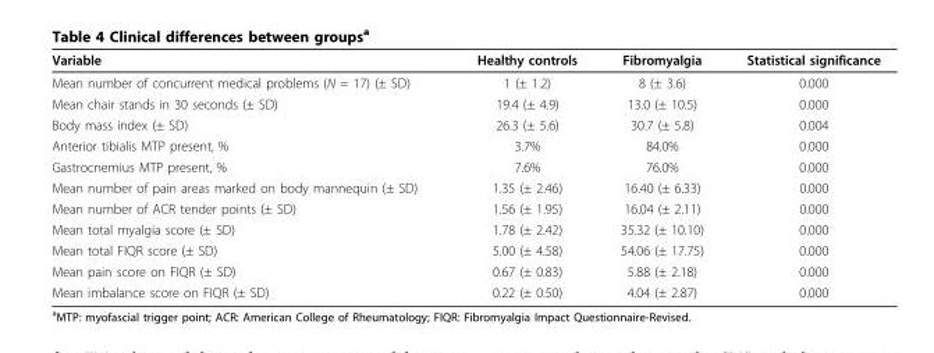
<table><thead><tr><td>Variable</td><td>Healthy controls</td><td>Fibromyalgia</td><td>Statistical significance</td></tr></thead><tbody><tr><td>Mean number of concurrent medical problems (N = 17) (± SD)</td><td>1 (± 1.2)</td><td>8 (± 3.6)</td><td>0.000</td></tr><tr><td>Mean chair stands in 30 seconds (± SD)</td><td>19.4 (± 4.9)</td><td>13.0 (± 10.5)</td><td>0.000</td></tr><tr><td>Body mass index (± SD)</td><td>26.3 (± 5.6)</td><td>30.7 (± 5.8)</td><td>0.004</td></tr><tr><td>Anterior tibialis MTP present, %</td><td>3.7%</td><td>84.0%</td><td>0.000</td></tr><tr><td>Gastrocnemius MTP present, %</td><td>7.6%</td><td>76.0%</td><td>0.000</td></tr><tr><td>Mean number of pain areas marked on body mannequin (± SD)</td><td>1.35 (± 2.46)</td><td>16.40 (± 6.33)</td><td>0.000</td></tr><tr><td>Mean number of ACR tender points (± SD)</td><td>1.56 (± 1.95)</td><td>16.04 (± 2.11)</td><td>0.000</td></tr><tr><td>Mean total myalgia score (± SD)</td><td>1.78 (± 2.42)</td><td>35.32 (± 10.10)</td><td>0.000</td></tr><tr><td>Mean total FIQR score (± SD)</td><td>5.00 (± 4.58)</td><td>54.06 (± 17.75)</td><td>0.000</td></tr><tr><td>Mean pain score on FIQR (± SD)</td><td>0.67 (± 0.83)</td><td>5.88 (± 2.18)</td><td>0.000</td></tr><tr><td>Mean imbalance score on FIQR (± SD)</td><td>0.22 (± 0.50)</td><td>4.04 (± 2.87)</td><td>0.000</td></tr></tbody></table>